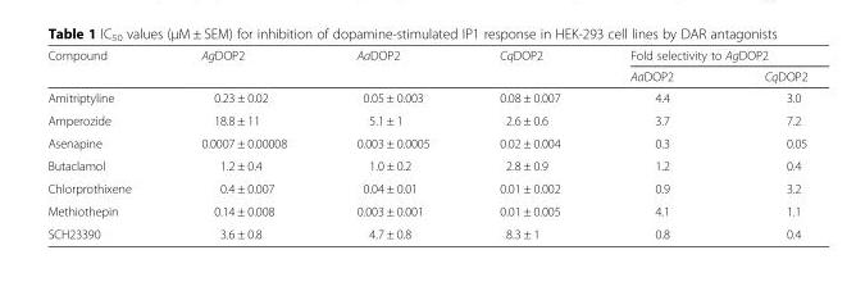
<table><thead><tr><td rowspan="2">Compound</td><td rowspan="2">AgDOP2</td><td rowspan="2">AaDOP2</td><td rowspan="2">CqDOP2</td><td colspan="2">Fold selectivity to AgDOP2</td></tr><tr><td>AaDOP2</td><td>CqDOP2</td></tr></thead><tbody><tr><td>Amitriptyline</td><td>0.23 ± 0.02</td><td>0.05 ± 0.003</td><td>0.08 ± 0.007</td><td>4.4</td><td>3.0</td></tr><tr><td>Amperozide</td><td>18.8 ± 11</td><td>5.1 ± 1</td><td>2.6 ± 0.6</td><td>3.7</td><td>7.2</td></tr><tr><td>Asenapine</td><td>0.0007 ± 0.00008</td><td>0.003 ± 0.0005</td><td>0.02 ± 0.004</td><td>0.3</td><td>0.05</td></tr><tr><td>Butaclamol</td><td>1.2 ± 0.4</td><td>1.0 ± 0.2</td><td>2.8 ± 0.9</td><td>1.2</td><td>0.4</td></tr><tr><td>Chlorprothixene</td><td>0.4 ± 0.007</td><td>0.04 ± 0.01</td><td>0.01 ± 0.002</td><td>0.9</td><td>3.2</td></tr><tr><td>Methiothepin</td><td>0.14 ± 0.008</td><td>0.003 ± 0.001</td><td>0.01 ± 0.005</td><td>4.1</td><td>1.1</td></tr><tr><td>SCH23390</td><td>3.6 ± 0.8</td><td>4.7 ± 0.8</td><td>8.3 ± 1</td><td>0.8</td><td>0.4</td></tr></tbody></table>